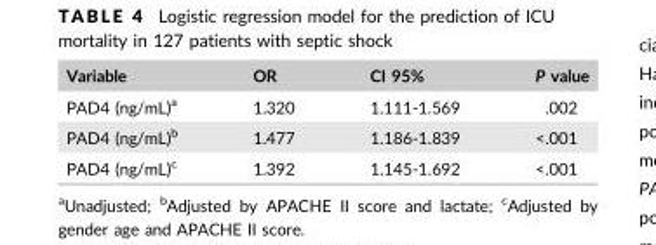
<table><thead><tr><td>Variable</td><td>OR</td><td>CI 95%</td><td>P value</td></tr></thead><tbody><tr><td>PAD4 (ng/mL)<sup>a</sup></td><td>1.320</td><td>1.111-1.569</td><td>.002</td></tr><tr><td>PAD4 (ng/mL)<sup>b</sup></td><td>1.477</td><td>1.186-1.839</td><td>&lt;.001</td></tr><tr><td>PAD4 (ng/mL)<sup>c</sup></td><td>1.392</td><td>1.145-1.692</td><td>&lt;.001</td></tr></tbody></table>